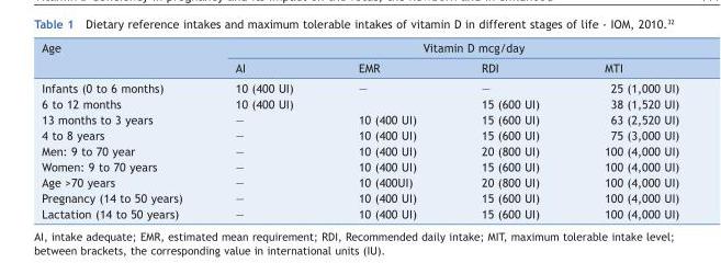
<table><thead><tr><td rowspan="2">Age</td><td colspan="4">Vitamin D mcg/day</td></tr><tr><td>AI</td><td>EMR</td><td>RDI</td><td>MTI</td></tr></thead><tbody><tr><td>Infants (0 to 6 months)</td><td>10 (400 UI)</td><td>—</td><td>—</td><td>25 (1,000 UI)</td></tr><tr><td>6 to 12 months</td><td>10 (400 UI)</td><td></td><td>15 (600 UI)</td><td>38 (1,520 UI)</td></tr><tr><td>13 months to 3 years</td><td>—</td><td>10 (400 UI)</td><td>15 (600 UI)</td><td>63 (2,520 UI)</td></tr><tr><td>4 to 8 years</td><td>—</td><td>10 (400 UI)</td><td>15 (600 UI)</td><td>75 (3,000 UI)</td></tr><tr><td>Men: 9 to 70 year</td><td>—</td><td>10 (400 UI)</td><td>20 (800 UI)</td><td>100 (4,000 UI)</td></tr><tr><td>Women: 9 to 70 years</td><td>—</td><td>10 (400 UI)</td><td>15 (600 UI)</td><td>100 (4,000 UI)</td></tr><tr><td>Age &gt;70 years</td><td>—</td><td>10 (400UI)</td><td>20 (800 UI)</td><td>100 (4,000 UI)</td></tr><tr><td>Pregnancy (14 to 50 years)</td><td>—</td><td>10 (400 UI)</td><td>15 (600 UI)</td><td>100 (4,000 UI)</td></tr><tr><td>Lactation (14 to 50 years)</td><td>—</td><td>10 (400 UI)</td><td>15 (600 UI)</td><td>100 (4,000 UI)</td></tr></tbody></table>